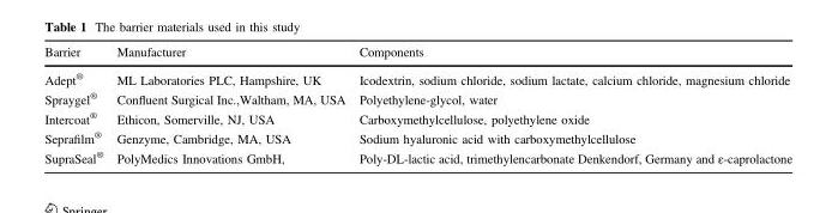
<table><thead><tr><td>Barrier</td><td>Manufacturer</td><td>Components</td></tr></thead><tbody><tr><td>Adept<sup>®</sup></td><td>ML Laboratories PLC, Hampshire, UK</td><td>Icodextrin, sodium chloride, sodium lactate, calcium chloride, magnesium chloride</td></tr><tr><td>Spraygel<sup>®</sup></td><td>Confluent Surgical Inc.,Waltham, MA, USA</td><td>Polyethylene-glycol, water</td></tr><tr><td>Intercoat<sup>®</sup></td><td>Ethicon, Somerville, NJ, USA</td><td>Carboxymethylcellulose, polyethylene oxide</td></tr><tr><td>Seprafilm<sup>®</sup></td><td>Genzyme, Cambridge, MA, USA</td><td>Sodium hyaluronic acid with carboxymethylcellulose</td></tr><tr><td>SupraSeal<sup>®</sup></td><td>PolyMedics Innovations GmbH,</td><td>Poly-DL-lactic acid, trimethylencarbonate Denkendorf, Germany and ε-caprolactone</td></tr></tbody></table>